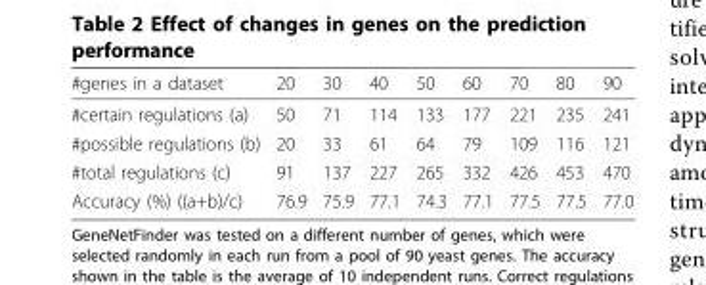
<table><thead><tr><td>#genes in a dataset</td><td>20</td><td>30</td><td>40</td><td>50</td><td>60</td><td>70</td><td>80</td><td>90</td></tr></thead><tbody><tr><td>#certain regulations (a)</td><td>50</td><td>71</td><td>114</td><td>133</td><td>177</td><td>221</td><td>235</td><td>241</td></tr><tr><td>#possible regulations (b)</td><td>20</td><td>33</td><td>61</td><td>64</td><td>79</td><td>109</td><td>116</td><td>121</td></tr><tr><td>#total regulations (c)</td><td>91</td><td>137</td><td>227</td><td>265</td><td>332</td><td>426</td><td>453</td><td>470</td></tr><tr><td>Accuracy (%) ((a+b)/c)</td><td>76.9</td><td>75.9</td><td>77.1</td><td>74.3</td><td>77.1</td><td>77.5</td><td>77.5</td><td>77.0</td></tr></tbody></table>